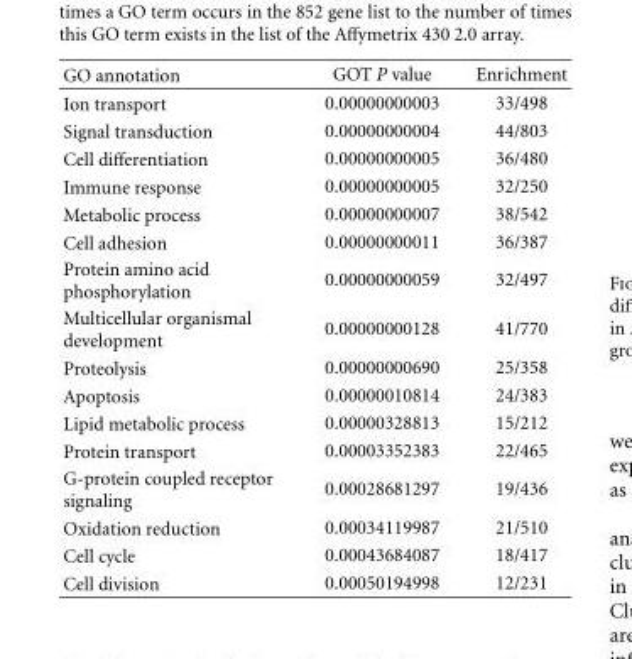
<table><thead><tr><td>GO annotation</td><td>GOT P value</td><td>Enrichment</td></tr></thead><tbody><tr><td>Ion transport</td><td>0.00000000003</td><td>33/498</td></tr><tr><td>Signal transduction</td><td>0.00000000004</td><td>44/803</td></tr><tr><td>Cell differentiation</td><td>0.00000000005</td><td>36/480</td></tr><tr><td>Immune response</td><td>0.00000000005</td><td>32/250</td></tr><tr><td>Metabolic process</td><td>0.00000000007</td><td>38/542</td></tr><tr><td>Cell adhesion</td><td>0.00000000011</td><td>36/387</td></tr><tr><td>Protein amino acid phosphorylation</td><td>0.00000000059</td><td>32/497</td></tr><tr><td>Multicellular organismal development</td><td>0.00000000128</td><td>41/770</td></tr><tr><td>Proteolysis</td><td>0.00000000690</td><td>25/358</td></tr><tr><td>Apoptosis</td><td>0.00000010814</td><td>24/383</td></tr><tr><td>Lipid metabolic process</td><td>0.00000328813</td><td>15/212</td></tr><tr><td>Protein transport</td><td>0.00003352383</td><td>22/465</td></tr><tr><td>G-protein coupled receptor signaling</td><td>0.00028681297</td><td>19/436</td></tr><tr><td>Oxidation reduction</td><td>0.00034119987</td><td>21/510</td></tr><tr><td>Cell cycle</td><td>0.00043684087</td><td>18/417</td></tr><tr><td>Cell division</td><td>0.00050194998</td><td>12/231</td></tr></tbody></table>